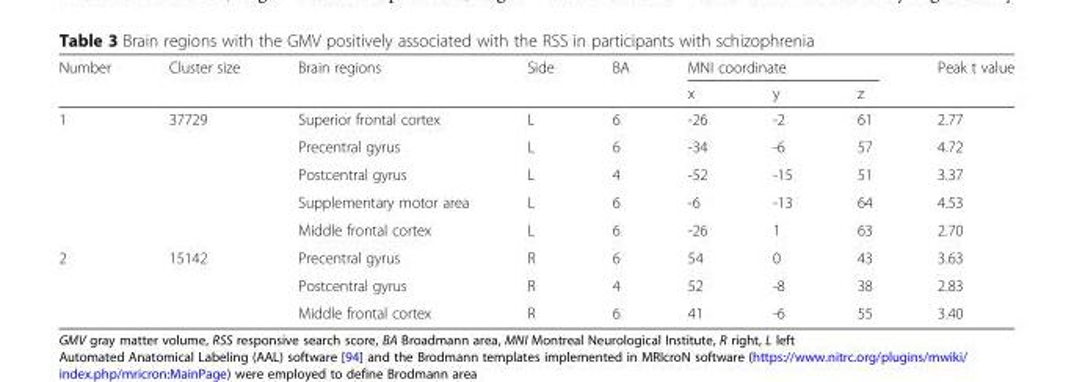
<table><thead><tr><td rowspan="2">Number</td><td rowspan="2">Cluster size</td><td rowspan="2">Brain regions</td><td rowspan="2">Side</td><td rowspan="2">BA</td><td colspan="3">MNI coordinate</td><td rowspan="2">Peak t value</td></tr><tr><td>x</td><td>y</td><td>z</td></tr></thead><tbody><tr><td rowspan="5">1</td><td>37729</td><td>Superior frontal cortex</td><td>L</td><td>6</td><td>-26</td><td>-2</td><td>61</td><td>2.77</td></tr><tr><td></td><td>Precentral gyrus</td><td>L</td><td>6</td><td>-34</td><td>-6</td><td>57</td><td>4.72</td></tr><tr><td></td><td>Postcentral gyrus</td><td>L</td><td>4</td><td>-52</td><td>-15</td><td>51</td><td>3.37</td></tr><tr><td></td><td>Supplementary motor area</td><td>L</td><td>6</td><td>-6</td><td>-13</td><td>64</td><td>4.53</td></tr><tr><td></td><td>Middle frontal cortex</td><td>L</td><td>6</td><td>-26</td><td>1</td><td>63</td><td>2.70</td></tr><tr><td rowspan="3">2</td><td>15142</td><td>Precentral gyrus</td><td>R</td><td>6</td><td>54</td><td>0</td><td>43</td><td>3.63</td></tr><tr><td></td><td>Postcentral gyrus</td><td>R</td><td>4</td><td>52</td><td>-8</td><td>38</td><td>2.83</td></tr><tr><td></td><td>Middle frontal cortex</td><td>R</td><td>6</td><td>41</td><td>-6</td><td>55</td><td>3.40</td></tr></tbody></table>